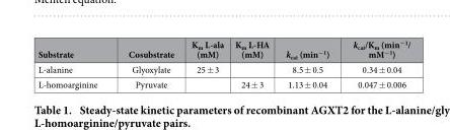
<table><thead><tr><td>Substrate</td><td>Cosubstrate</td><td>K<sub>m</sub> L-ala (mM)</td><td>K<sub>m</sub> L-HA (mM)</td><td>k<sub>cat</sub> (min<sup>−1</sup>)</td><td>k<sub>cat</sub>/K<sub>m</sub> (min<sup>−1</sup>/ mM<sup>−1</sup>)</td></tr></thead><tbody><tr><td>L-alanine</td><td>Glyoxylate</td><td>25 ± 3</td><td></td><td>8.5 ± 0.5</td><td>0.34 ± 0.04</td></tr><tr><td>L-homoarginine</td><td>Pyruvate</td><td></td><td>24 ± 3</td><td>1.13 ± 0.04</td><td>0.047 ± 0.006</td></tr></tbody></table>